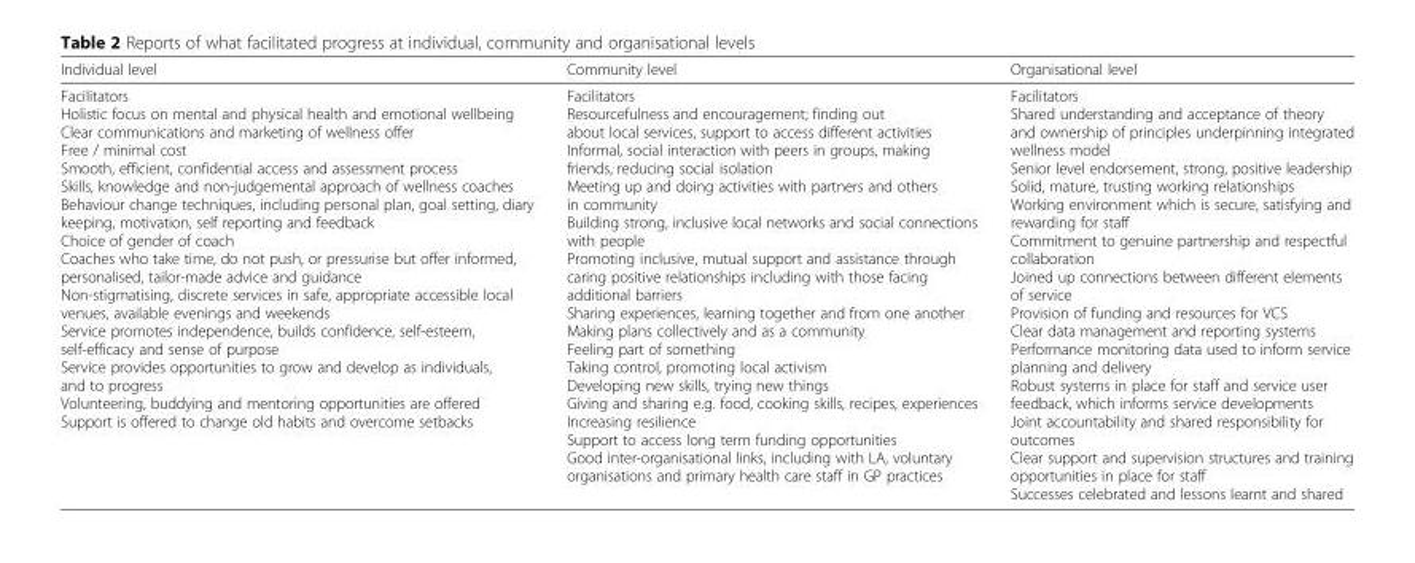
<table><thead><tr><td>Individual level</td><td>Community level</td><td>Organisational level</td></tr></thead><tbody><tr><td>Facilitators Holistic focus on mental and physical health and emotional wellbeing Clear communications and marketing of wellness offer Free / minimal cost Smooth, efficient, confidential access and assessment process Skills, knowledge and non-judgemental approach of wellness coaches Behaviour change techniques, including personal plan, goal setting, diary keeping, motivation, self reporting and feedback Choice of gender of coach Coaches who take time, do not push, or pressurise but offer informed, personalised, tailor-made advice and guidance Non-stigmatising, discrete services in safe, appropriate accessible local venues, available evenings and weekends Service promotes independence, builds confidence, self-esteem, self-efficacy and sense of purpose Service provides opportunities to grow and develop as individuals, and to progress Volunteering, buddying and mentoring opportunities are offered Support is offered to change old habits and overcome setbacks</td><td>Facilitators Resourcefulness and encouragement; finding out about local services, support to access different activities Informal, social interaction with peers in groups, making friends, reducing social isolation Meeting up and doing activities with partners and others in community Building strong, inclusive local networks and social connections with people Promoting inclusive, mutual support and assistance through caring positive relationships including with those facing additional barriers Sharing experiences, learning together and from one another Making plans collectively and as a community Feeling part of something Taking control, promoting local activism Developing new skills, trying new things Giving and sharing e.g. food, cooking skills, recipes, experiences Increasing resilience Support to access long term funding opportunities Good inter-organisational links, including with LA, voluntary organisations and primary health care staff in GP practices</td><td>Facilitators Shared understanding and acceptance of theory and ownership of principles underpinning integrated wellness model Senior level endorsement, strong, positive leadership Solid, mature, trusting working relationships Working environment which is secure, satisfying and rewarding for staff Commitment to genuine partnership and respectful collaboration Joined up connections between different elements of service Provision of funding and resources for VCS Clear data management and reporting systems Performance monitoring data used to inform service planning and delivery Robust systems in place for staff and service user feedback, which informs service developments Joint accountability and shared responsibility for outcomes Clear support and supervision structures and training opportunities in place for staff Successes celebrated and lessons learnt and shared</td></tr></tbody></table>